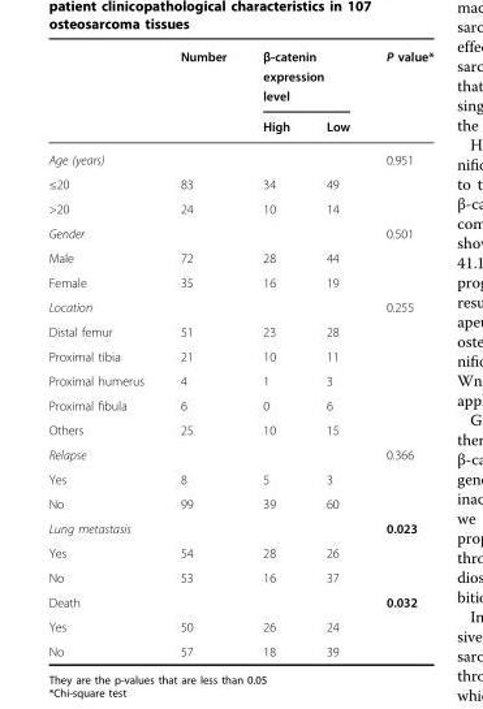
<table><thead><tr><td rowspan="2"></td><td rowspan="2">Number</td><td colspan="2">β-catenin expression level</td><td rowspan="2">P value*</td></tr><tr><td>High</td><td>Low</td></tr></thead><tbody><tr><td>Age (years)</td><td></td><td></td><td></td><td>0.951</td></tr><tr><td>≤20</td><td>83</td><td>34</td><td>49</td><td></td></tr><tr><td>&gt;20</td><td>24</td><td>10</td><td>14</td><td></td></tr><tr><td>Gender</td><td></td><td></td><td></td><td>0.501</td></tr><tr><td>Male</td><td>72</td><td>28</td><td>44</td><td></td></tr><tr><td>Female</td><td>35</td><td>16</td><td>19</td><td></td></tr><tr><td>Location</td><td></td><td></td><td></td><td>0.255</td></tr><tr><td>Distal femur</td><td>51</td><td>23</td><td>28</td><td></td></tr><tr><td>Proximal tibia</td><td>21</td><td>10</td><td>11</td><td></td></tr><tr><td>Proximal humerus</td><td>4</td><td>1</td><td>3</td><td></td></tr><tr><td>Proximal fibula</td><td>6</td><td>0</td><td>6</td><td></td></tr><tr><td>Others</td><td>25</td><td>10</td><td>15</td><td></td></tr><tr><td>Relapse</td><td></td><td></td><td></td><td>0.366</td></tr><tr><td>Yes</td><td>8</td><td>5</td><td>3</td><td></td></tr><tr><td>No</td><td>99</td><td>39</td><td>60</td><td></td></tr><tr><td>Lung metastasis</td><td></td><td></td><td></td><td>0.023</td></tr><tr><td>Yes</td><td>54</td><td>28</td><td>26</td><td></td></tr><tr><td>No</td><td>53</td><td>16</td><td>37</td><td></td></tr><tr><td>Death</td><td></td><td></td><td></td><td>0.032</td></tr><tr><td>Yes</td><td>50</td><td>26</td><td>24</td><td></td></tr><tr><td>No</td><td>57</td><td>18</td><td>39</td><td></td></tr></tbody></table>